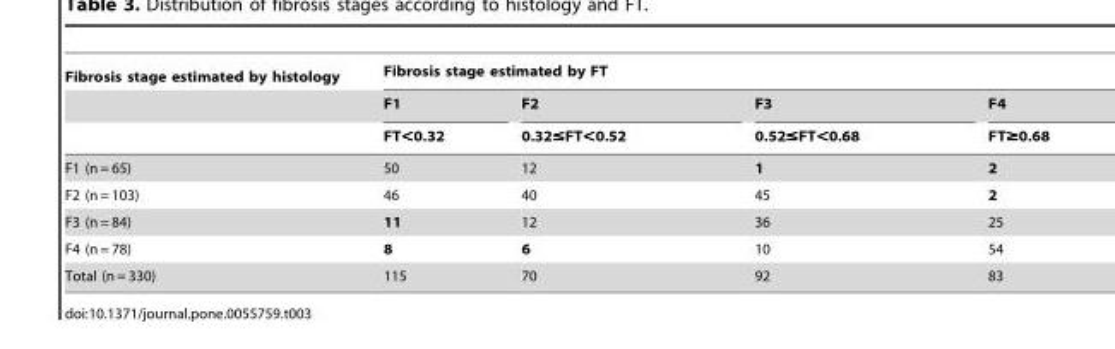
<table><thead><tr><td rowspan="3">Fibrosis stage estimated by histology</td><td colspan="4">Fibrosis stage estimated by FT</td></tr><tr><td rowspan="2">F1 FT&lt;0.32</td><td rowspan="2">F2 0.32≤FT&lt;0.52</td><td rowspan="2">F3 0.52≤FT&lt;0.68</td><td rowspan="2">F4 FT≥0.68</td></tr><tr></tr></thead><tbody><tr><td>F1 (n = 65)</td><td>50</td><td>12</td><td>1</td><td>2</td></tr><tr><td>F2 (n = 103)</td><td>46</td><td>40</td><td>45</td><td>2</td></tr><tr><td>F3 (n = 84)</td><td>11</td><td>12</td><td>36</td><td>25</td></tr><tr><td>F4 (n = 78)</td><td>8</td><td>6</td><td>10</td><td>54</td></tr><tr><td>Total (n = 330)</td><td>115</td><td>70</td><td>92</td><td>83</td></tr></tbody></table>